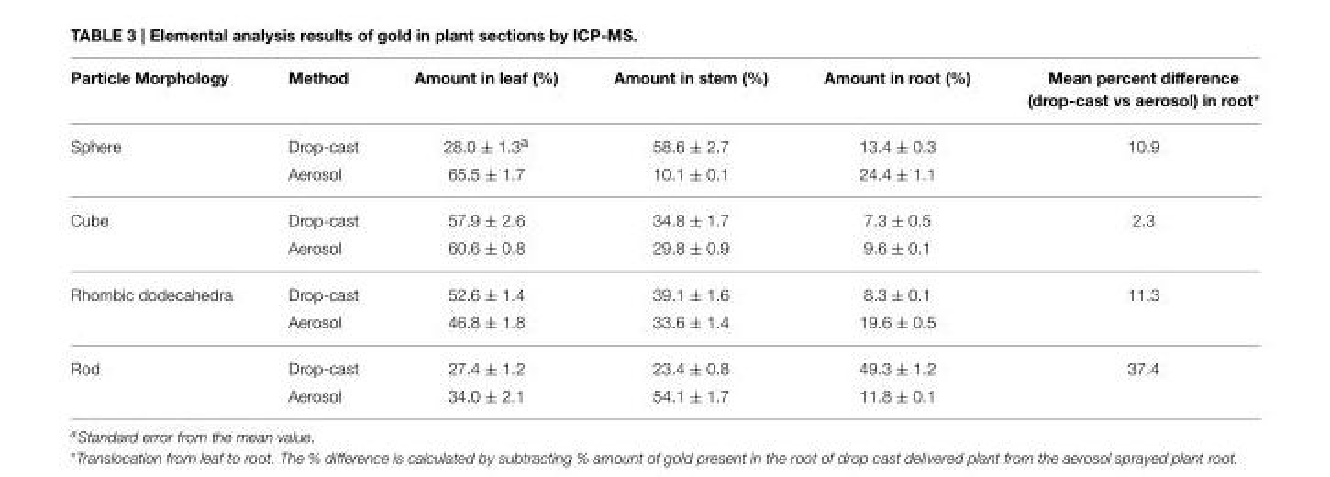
<table><thead><tr><td>Particle Morphology</td><td>Method</td><td>Amount in leaf (%)</td><td>Amount in stem (%)</td><td>Amount in root (%)</td><td>Mean percent difference (drop-cast vs aerosol) in root*</td></tr></thead><tbody><tr><td rowspan="2">Sphere</td><td>Drop-cast</td><td>28.0 ± 1.3<sup>a</sup></td><td>58.6 ± 2.7</td><td>13.4 ± 0.3</td><td>10.9</td></tr><tr><td>Aerosol</td><td>65.5 ± 1.7</td><td>10.1 ± 0.1</td><td>24.4 ± 1.1</td><td></td></tr><tr><td rowspan="2">Cube</td><td>Drop-cast</td><td>57.9 ± 2.6</td><td>34.8 ± 1.7</td><td>7.3 ± 0.5</td><td>2.3</td></tr><tr><td>Aerosol</td><td>60.6 ± 0.8</td><td>29.8 ± 0.9</td><td>9.6 ± 0.1</td><td></td></tr><tr><td rowspan="2">Rhombic dodecahedra</td><td>Drop-cast</td><td>52.6 ± 1.4</td><td>39.1 ± 1.6</td><td>8.3 ± 0.1</td><td>11.3</td></tr><tr><td>Aerosol</td><td>46.8 ± 1.8</td><td>33.6 ± 1.4</td><td>19.6 ± 0.5</td><td></td></tr><tr><td rowspan="2">Rod</td><td>Drop-cast</td><td>27.4 ± 1.2</td><td>23.4 ± 0.8</td><td>49.3 ± 1.2</td><td>37.4</td></tr><tr><td>Aerosol</td><td>34.0 ± 2.1</td><td>54.1 ± 1.7</td><td>11.8 ± 0.1</td><td></td></tr></tbody></table>